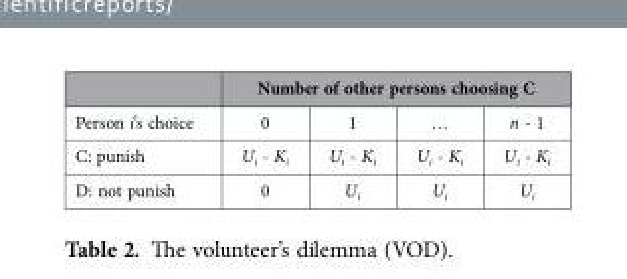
<table><thead><tr><td rowspan="2">Person i’s choice</td><td colspan="4">Number of other persons choosing C</td></tr><tr><td>0</td><td>1</td><td>…</td><td>n - 1</td></tr></thead><tbody><tr><td>C: punish</td><td>U<sub>i</sub> - K<sub>i</sub></td><td>U<sub>i</sub> - K<sub>i</sub></td><td>U<sub>i</sub> - K<sub>i</sub></td><td>U<sub>i</sub> - K<sub>i</sub></td></tr><tr><td>D: not punish</td><td>0</td><td>U<sub>i</sub></td><td>U<sub>i</sub></td><td>U<sub>i</sub></td></tr></tbody></table>